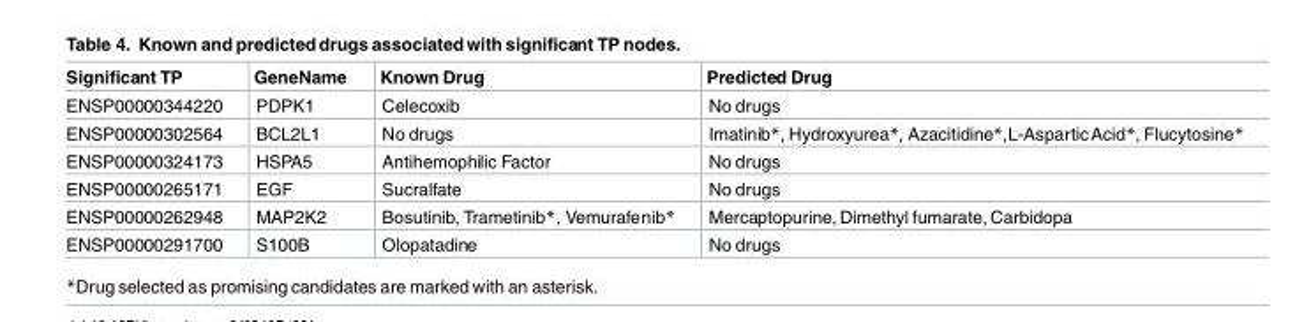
<table><thead><tr><td>Significant TP</td><td>GeneName</td><td>Known Drug</td><td>Predicted Drug</td></tr></thead><tbody><tr><td>ENSP00000344220</td><td>PDPK1</td><td>Celecoxib</td><td>No drugs</td></tr><tr><td>ENSP00000302564</td><td>BCL2L1</td><td>No drugs</td><td>Imatinib*, Hydroxyurea*, Azacitidine*,L-AsparticAcid*, Flucytosine*</td></tr><tr><td>ENSP00000324173</td><td>HSPA5</td><td>Antihemophilic Factor</td><td>No drugs</td></tr><tr><td>ENSP00000265171</td><td>EGF</td><td>Sucralfate</td><td>No drugs</td></tr><tr><td>ENSP00000262948</td><td>MAP2K2</td><td>Bosutinib, Trametinib*, Vemurafenib*</td><td>Mercaptopurine, Dimethyl fumarate, Carbidopa</td></tr><tr><td>ENSP00000291700</td><td>S100B</td><td>Olopatadine</td><td>No drugs</td></tr></tbody></table>